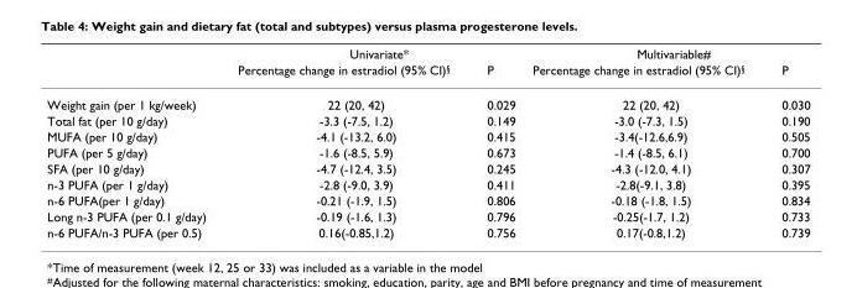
<table><thead><tr><td rowspan="2"></td><td colspan="2">Univariate*</td><td colspan="2">Multivariable#</td></tr><tr><td>Percentage change in estradiol (95% CI)<sup>§</sup></td><td>P</td><td>Percentage change in estradiol (95% CI)<sup>§</sup></td><td>P</td></tr></thead><tbody><tr><td>Weight gain (per 1 kg/week)</td><td>22 (20, 42)</td><td>0.029</td><td>22 (20, 42)</td><td>0.030</td></tr><tr><td>Total fat (per 10 g/day)</td><td>-3.3 (-7.5, 1.2)</td><td>0.149</td><td>-3.0 (-7.3, 1.5)</td><td>0.190</td></tr><tr><td>MUFA (per 10 g/day)</td><td>-4.1 (-13.2, 6.0)</td><td>0.415</td><td>-3.4(-12.6,6.9)</td><td>0.505</td></tr><tr><td>PUFA (per 5 g/day)</td><td>-1.6 (-8.5, 5.9)</td><td>0.673</td><td>-1.4 (-8.5, 6.1)</td><td>0.700</td></tr><tr><td>SFA (per 10 g/day)</td><td>-4.7 (-12.4, 3.5)</td><td>0.245</td><td>-4.3 (-12.0, 4.1)</td><td>0.307</td></tr><tr><td>n-3 PUFA (per 1 g/day)</td><td>-2.8 (-9.0, 3.9)</td><td>0.411</td><td>-2.8(-9.1, 3.8)</td><td>0.395</td></tr><tr><td>n-6 PUFA(per 1 g/day)</td><td>-0.21 (-1.9, 1.5)</td><td>0.806</td><td>-0.18 (-1.8, 1.5)</td><td>0.834</td></tr><tr><td>Long n-3 PUFA (per 0.1 g/day)</td><td>-0.19 (-1.6, 1.3)</td><td>0.796</td><td>-0.25(-1.7, 1.2)</td><td>0.733</td></tr><tr><td>n-6 PUFA/n-3 PUFA (per 0.5)</td><td>0.16(-0.85,1.2)</td><td>0.756</td><td>0.17(-0.8,1.2)</td><td>0.739</td></tr></tbody></table>